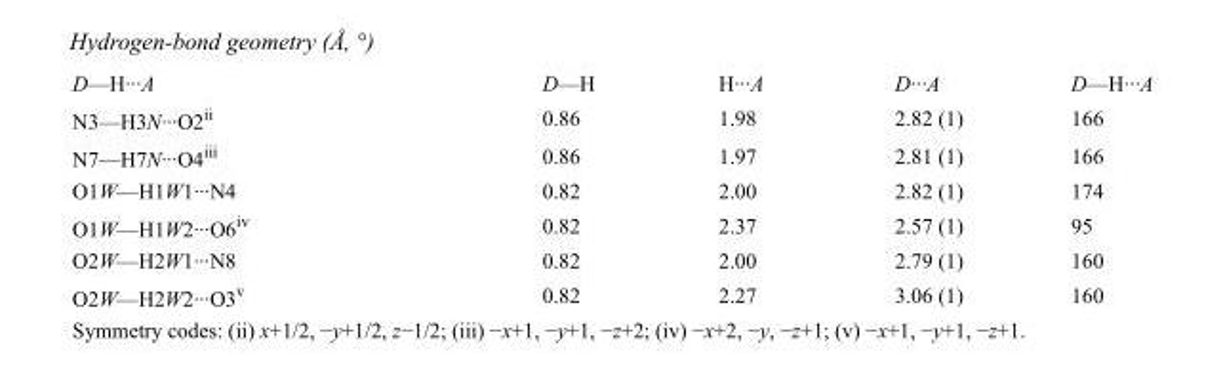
<table><tbody><tr><td>D—H···A</td><td>D—H</td><td>H···A</td><td>D···A</td><td>D—H···A</td></tr><tr><td>N3—H3N···O2<sup>ii</sup></td><td>0.86</td><td>1.98</td><td>2.82 (1)</td><td>166</td></tr><tr><td>N7—H7N···O4<sup>iii</sup></td><td>0.86</td><td>1.97</td><td>2.81 (1)</td><td>166</td></tr><tr><td>O1W—H1W1···N4</td><td>0.82</td><td>2.00</td><td>2.82 (1)</td><td>174</td></tr><tr><td>O1W—H1W2···O6<sup>iv</sup></td><td>0.82</td><td>2.37</td><td>2.57 (1)</td><td>95</td></tr><tr><td>O2W—H2W1···N8</td><td>0.82</td><td>2.00</td><td>2.79 (1)</td><td>160</td></tr><tr><td>O2W—H2W2···O3<sup>v</sup></td><td>0.82</td><td>2.27</td><td>3.06 (1)</td><td>160</td></tr></tbody></table>